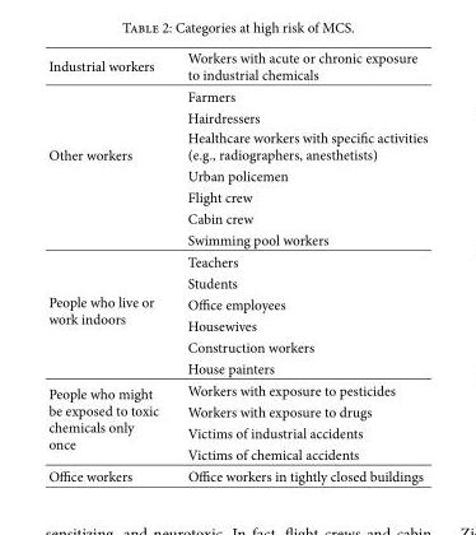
<table><thead><tr><td>Industrial workers</td><td>Workers with acute or chronic exposure to industrial chemicals</td></tr></thead><tbody><tr><td rowspan="7">Other workers</td><td>Farmers</td></tr><tr><td>Hairdressers</td></tr><tr><td>Healthcare workers with specific activities (e.g., radiographers, anesthetists)</td></tr><tr><td>Urban policemen</td></tr><tr><td>Flight crew</td></tr><tr><td>Cabin crew</td></tr><tr><td>Swimming pool workers</td></tr><tr><td rowspan="6">People who live or work indoors</td><td>Teachers</td></tr><tr><td>Students</td></tr><tr><td>Office employees</td></tr><tr><td>Housewives</td></tr><tr><td>Construction workers</td></tr><tr><td>House painters</td></tr><tr><td rowspan="4">People who might be exposed to toxic chemicals only once</td><td>Workers with exposure to pesticides</td></tr><tr><td>Workers with exposure to drugs</td></tr><tr><td>Victims of industrial accidents</td></tr><tr><td>Victims of chemical accidents</td></tr><tr><td>Office workers</td><td>Office workers in tightly closed buildings</td></tr></tbody></table>